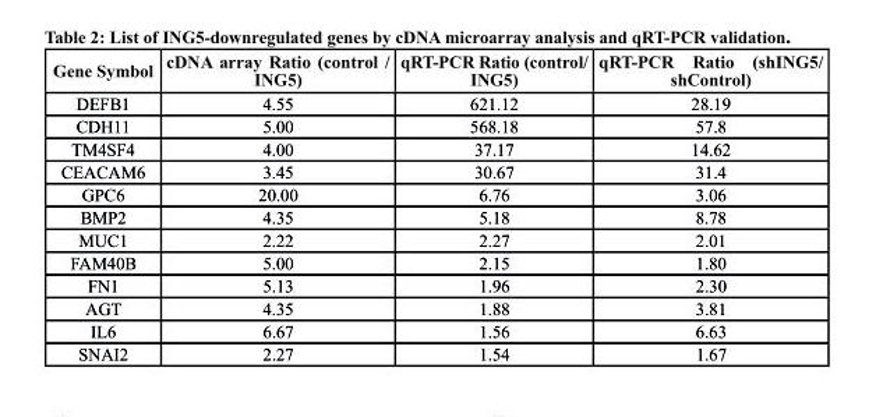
<table><thead><tr><td>Gene symbol</td><td>cDNA array ratio (control / ING5)</td><td>qrt-Pcr ratio (control/ ING5)</td><td>qrt-Pcr ratio (shING5/ shcontrol)</td></tr></thead><tbody><tr><td>DEFB1</td><td>4.55</td><td>621.12</td><td>28.19</td></tr><tr><td>CDH11</td><td>5.00</td><td>568.18</td><td>57.8</td></tr><tr><td>TM4SF4</td><td>4.00</td><td>37.17</td><td>14.62</td></tr><tr><td>CEACAM6</td><td>3.45</td><td>30.67</td><td>31.4</td></tr><tr><td>GPC6</td><td>20.00</td><td>6.76</td><td>3.06</td></tr><tr><td>BMP2</td><td>4.35</td><td>5.18</td><td>8.78</td></tr><tr><td>MUC1</td><td>2.22</td><td>2.27</td><td>2.01</td></tr><tr><td>FAM40B</td><td>5.00</td><td>2.15</td><td>1.80</td></tr><tr><td>FN1</td><td>5.13</td><td>1.96</td><td>2.30</td></tr><tr><td>AGT</td><td>4.35</td><td>1.88</td><td>3.81</td></tr><tr><td>IL6</td><td>6.67</td><td>1.56</td><td>6.63</td></tr><tr><td>SNAI2</td><td>2.27</td><td>1.54</td><td>1.67</td></tr></tbody></table>